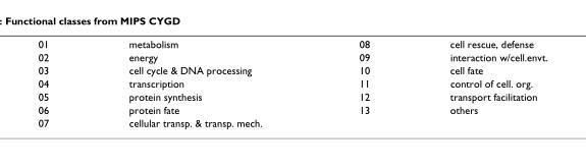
<table><tbody><tr><td>01</td><td>metabolism</td><td>08</td><td>cell rescue, defense</td></tr><tr><td>02</td><td>energy</td><td>09</td><td>interaction w/cell.envt.</td></tr><tr><td>03</td><td>cell cycle &amp; DNA processing</td><td>10</td><td>cell fate</td></tr><tr><td>04</td><td>transcription</td><td>11</td><td>control of cell. org.</td></tr><tr><td>05</td><td>protein synthesis</td><td>12</td><td>transport facilitation</td></tr><tr><td>06</td><td>protein fate</td><td>13</td><td>others</td></tr><tr><td>07</td><td>cellular transp. &amp; transp. mech.</td><td></td><td></td></tr></tbody></table>